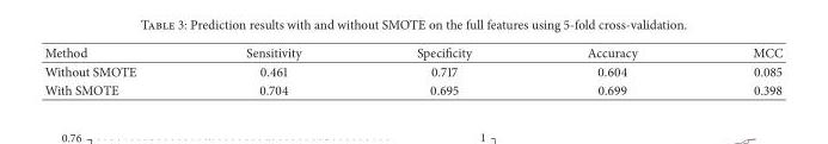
<table><thead><tr><td>Method</td><td>Sensitivity</td><td>Specificity</td><td>Accuracy</td><td>MCC</td></tr></thead><tbody><tr><td>Without SMOTE</td><td>0.461</td><td>0.717</td><td>0.604</td><td>0.085</td></tr><tr><td>With SMOTE</td><td>0.704</td><td>0.695</td><td>0.699</td><td>0.398</td></tr></tbody></table>